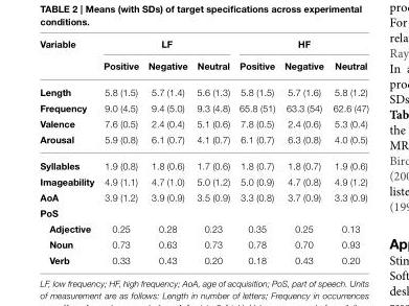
<table><thead><tr><td rowspan="2">Variable</td><td colspan="3">LF</td><td colspan="3">HF</td></tr><tr><td>Positive</td><td>Negative</td><td>Neutral</td><td>Positive</td><td>Negative</td><td>Neutral</td></tr></thead><tbody><tr><td>Length</td><td>5.8 (1.5)</td><td>5.7 (1.4)</td><td>5.6 (1.3)</td><td>5.8 (1.5)</td><td>5.7 (1.6)</td><td>5.8 (1.2)</td></tr><tr><td>Frequency</td><td>9.0 (4.5)</td><td>9.4 (5.0)</td><td>9.3 (4.8)</td><td>65.8 (51)</td><td>63.3 (54)</td><td>62.6 (47)</td></tr><tr><td>Valence</td><td>7.6 (0.5)</td><td>2.4 (0.4)</td><td>5.1 (0.6)</td><td>7.8 (0.5)</td><td>2.4 (0.6)</td><td>5.3 (0.4)</td></tr><tr><td>Arousal</td><td>5.9 (0.8)</td><td>6.1 (0.7)</td><td>4.1 (0.7)</td><td>6.1 (0.7)</td><td>6.3 (0.8)</td><td>4.0 (0.5)</td></tr><tr><td>Syllables</td><td>1.9 (0.8)</td><td>1.8 (0.6)</td><td>1.7 (0.6)</td><td>1.8 (0.7)</td><td>1.8 (0.7)</td><td>1.9 (0.6)</td></tr><tr><td>Imageability</td><td>4.9 (1.1)</td><td>4.7 (1.0)</td><td>5.0 (1.2)</td><td>5.0 (0.9)</td><td>4.7 (0.8)</td><td>4.9 (1.2)</td></tr><tr><td>AoA</td><td>3.9 (1.2)</td><td>3.9 (0.9)</td><td>3.5 (0.9)</td><td>3.3 (0.8)</td><td>3.7 (0.9)</td><td>3.3 (0.9)</td></tr><tr><td colspan="7">PoS</td></tr><tr><td>Adjective</td><td>0.25</td><td>0.28</td><td>0.23</td><td>0.35</td><td>0.25</td><td>0.13</td></tr><tr><td>Noun</td><td>0.73</td><td>0.63</td><td>0.73</td><td>0.78</td><td>0.70</td><td>0.93</td></tr><tr><td>Verb</td><td>0.33</td><td>0.43</td><td>0.20</td><td>0.18</td><td>0.43</td><td>0.20</td></tr></tbody></table>